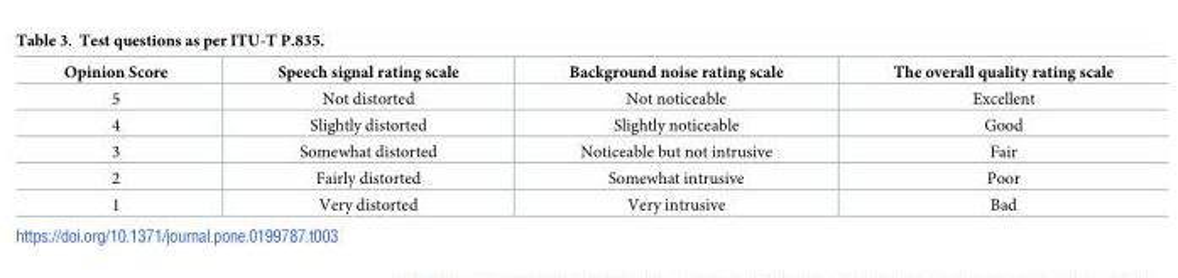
<table><thead><tr><td>Opinion Score</td><td>Speech signal rating scale</td><td>Background noise rating scale</td><td>The overall quality rating scale</td></tr></thead><tbody><tr><td>5</td><td>Not distorted</td><td>Not noticeable</td><td>Excellent</td></tr><tr><td>4</td><td>Slightly distorted</td><td>Slightly noticeable</td><td>Good</td></tr><tr><td>3</td><td>Somewhat distorted</td><td>Noticeable but not intrusive</td><td>Fair</td></tr><tr><td>2</td><td>Fairly distorted</td><td>Somewhat intrusive</td><td>Poor</td></tr><tr><td>1</td><td>Very distorted</td><td>Very intrusive</td><td>Bad</td></tr></tbody></table>